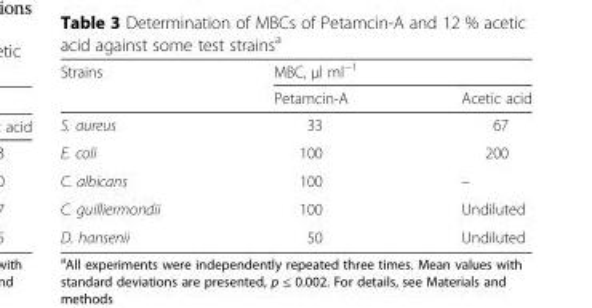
<table><thead><tr><td rowspan="2">Strains</td><td colspan="2">MBC, μl ml<sup>−1</sup></td></tr><tr><td>Petamcin-A</td><td>Acetic acid</td></tr></thead><tbody><tr><td>S. aureus</td><td>33</td><td>67</td></tr><tr><td>E. coli</td><td>100</td><td>200</td></tr><tr><td>C. albicans</td><td>100</td><td>–</td></tr><tr><td>C. guilliermondii</td><td>100</td><td>Undiluted</td></tr><tr><td>D. hansenii</td><td>50</td><td>Undiluted</td></tr></tbody></table>